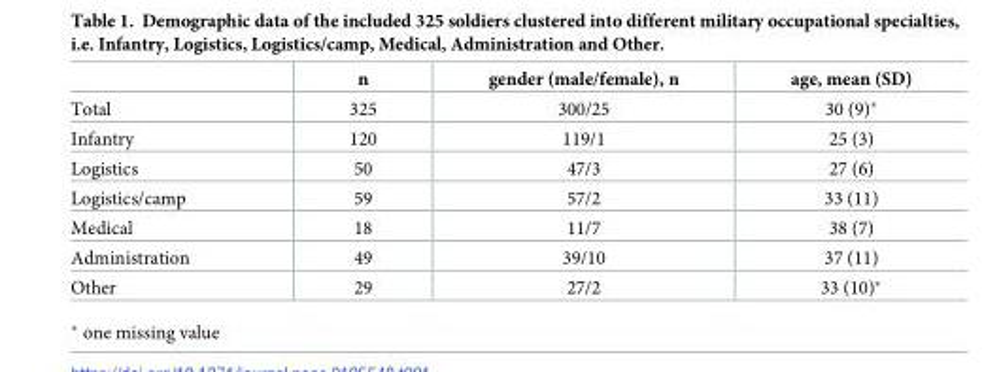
<table><thead><tr><td></td><td>n</td><td>gender (male/female), n</td><td>age, mean (SD)</td></tr></thead><tbody><tr><td>Total</td><td>325</td><td>300/25</td><td>30 (9)*</td></tr><tr><td>Infantry</td><td>120</td><td>119/1</td><td>25 (3)</td></tr><tr><td>Logistics</td><td>50</td><td>47/3</td><td>27 (6)</td></tr><tr><td>Logistics/camp</td><td>59</td><td>57/2</td><td>33 (11)</td></tr><tr><td>Medical</td><td>18</td><td>11/7</td><td>38 (7)</td></tr><tr><td>Administration</td><td>49</td><td>39/10</td><td>37 (11)</td></tr><tr><td>Other</td><td>29</td><td>27/2</td><td>33 (10)*</td></tr></tbody></table>